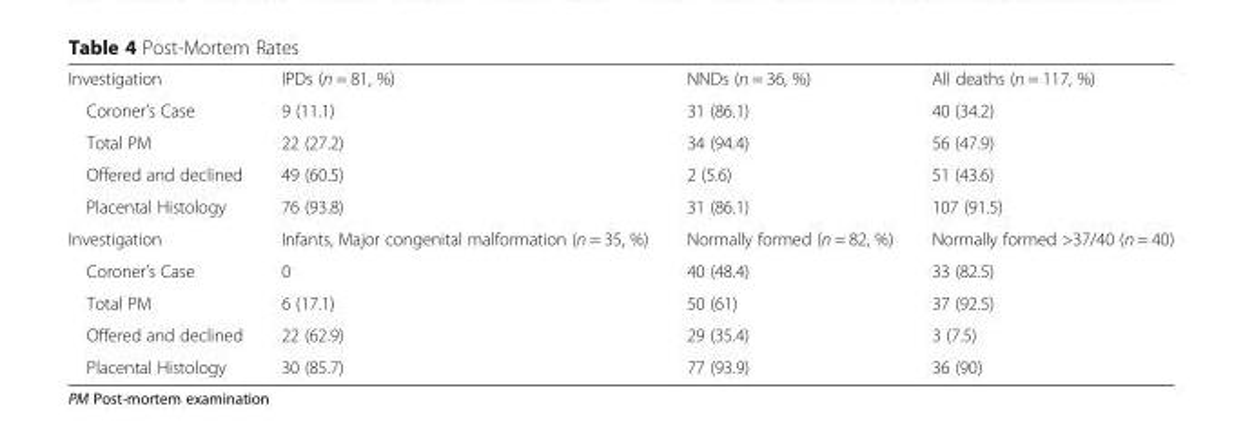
<table><tbody><tr><td>Investigation</td><td>IPDs (n = 81, %)</td><td>NNDs (n = 36, %)</td><td>All deaths (n = 117, %)</td></tr><tr><td>Coroner’s Case</td><td>9 (11.1)</td><td>31 (86.1)</td><td>40 (34.2)</td></tr><tr><td>Total PM</td><td>22 (27.2)</td><td>34 (94.4)</td><td>56 (47.9)</td></tr><tr><td>Offered and declined</td><td>49 (60.5)</td><td>2 (5.6)</td><td>51 (43.6)</td></tr><tr><td>Placental Histology</td><td>76 (93.8)</td><td>31 (86.1)</td><td>107 (91.5)</td></tr><tr><td>Investigation</td><td>Infants, Major congenital malformation (n = 35, %)</td><td>Normally formed (n = 82, %)</td><td>Normally formed &gt;37/40 (n = 40)</td></tr><tr><td>Coroner’s Case</td><td>0</td><td>40 (48.4)</td><td>33 (82.5)</td></tr><tr><td>Total PM</td><td>6 (17.1)</td><td>50 (61)</td><td>37 (92.5)</td></tr><tr><td>Offered and declined</td><td>22 (62.9)</td><td>29 (35.4)</td><td>3 (7.5)</td></tr><tr><td>Placental Histology</td><td>30 (85.7)</td><td>77 (93.9)</td><td>36 (90)</td></tr></tbody></table>